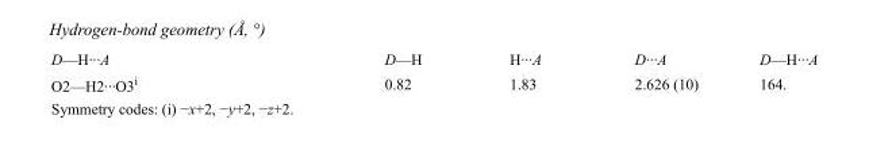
<table><tbody><tr><td>D—H···A</td><td>D—H</td><td>H···A</td><td>D···A</td><td>D—H···A</td></tr><tr><td>O2—H2···O3<sup>i</sup></td><td>0.82</td><td>1.83</td><td>2.626 (10)</td><td>164.</td></tr></tbody></table>